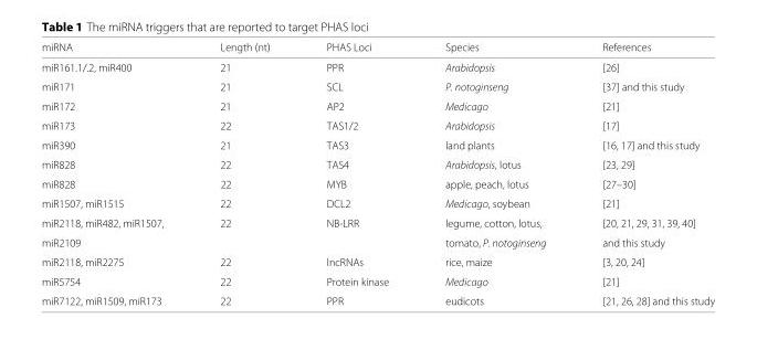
<table><thead><tr><td>miRNA</td><td>Length (nt)</td><td>PHAS Loci</td><td>Species</td><td>References</td></tr></thead><tbody><tr><td>miR161.1/.2, miR400</td><td>21</td><td>PPR</td><td>Arabidopsis</td><td>[26]</td></tr><tr><td>miR171</td><td>21</td><td>SCL</td><td>P. notoginseng</td><td>[37] and this study</td></tr><tr><td>miR172</td><td>21</td><td>AP2</td><td>Medicago</td><td>[21]</td></tr><tr><td>miR173</td><td>22</td><td>TAS1/2</td><td>Arabidopsis</td><td>[17]</td></tr><tr><td>miR390</td><td>21</td><td>TAS3</td><td>land plants</td><td>[16, 17] and this study</td></tr><tr><td>miR828</td><td>22</td><td>TAS4</td><td>Arabidopsis, lotus</td><td>[23, 29]</td></tr><tr><td>miR828</td><td>22</td><td>MYB</td><td>apple, peach, lotus</td><td>[27–30]</td></tr><tr><td>miR1507, miR1515</td><td>22</td><td>DCL2</td><td>Medicago, soybean</td><td>[21]</td></tr><tr><td>miR2118, miR482, miR1507,</td><td>22</td><td>NB-LRR</td><td>legume, cotton, lotus,</td><td>[20, 21, 29, 31, 39, 40]</td></tr><tr><td>miR2109</td><td></td><td></td><td>tomato, P. notoginseng</td><td>and this study</td></tr><tr><td>miR2118, miR2275</td><td>22</td><td>lncRNAs</td><td>rice, maize</td><td>[3, 20, 24]</td></tr><tr><td>miR5754</td><td>22</td><td>Protein kinase</td><td>Medicago</td><td>[21]</td></tr><tr><td>miR7122, miR1509, miR173</td><td>22</td><td>PPR</td><td>eudicots</td><td>[21, 26, 28] and this study</td></tr></tbody></table>